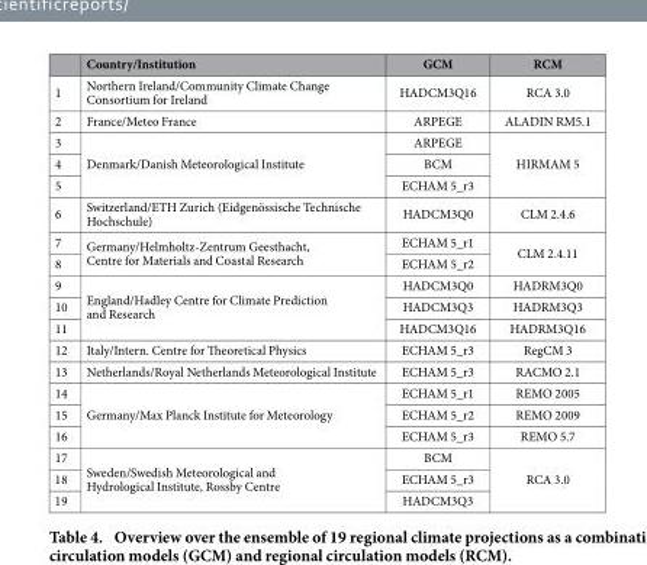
<table><thead><tr><td></td><td>Country/Institution</td><td>GCM</td><td>RCM</td></tr></thead><tbody><tr><td>1</td><td>Northern Ireland/Community Climate Change Consortium for Ireland</td><td>HADCM3Q16</td><td>RCA 3.0</td></tr><tr><td>2</td><td>France/Meteo France</td><td>ARPEGE</td><td>ALADIN RM5.1</td></tr><tr><td>3</td><td rowspan="3">Denmark/Danish Meteorological Institute</td><td>ARPEGE</td><td rowspan="3">HIRMAM 5</td></tr><tr><td>4</td><td>BCM</td></tr><tr><td>5</td><td>ECHAM 5_r3</td></tr><tr><td>6</td><td>Switzerland/ETH Zurich (Eidgenössische Technische Hochschule)</td><td>HADCM3Q0</td><td>CLM 2.4.6</td></tr><tr><td>7</td><td rowspan="2">Germany/Helmholtz-Zentrum Geesthacht, Centre for Materials and Coastal Research</td><td>ECHAM 5_r1</td><td rowspan="2">CLM 2.4.11</td></tr><tr><td>8</td><td>ECHAM 5_r2</td></tr><tr><td>9</td><td rowspan="3">England/Hadley Centre for Climate Prediction and Research</td><td>HADCM3Q0</td><td>HADRM3Q0</td></tr><tr><td>10</td><td>HADCM3Q3</td><td>HADRM3Q3</td></tr><tr><td>11</td><td>HADCM3Q16</td><td>HADRM3Q16</td></tr><tr><td>12</td><td>Italy/Intern. Centre for Theoretical Physics</td><td>ECHAM 5_r3</td><td>RegCM 3</td></tr><tr><td>13</td><td>Netherlands/Royal Netherlands Meteorological Institute</td><td>ECHAM 5_r3</td><td>RACMO 2.1</td></tr><tr><td>14</td><td rowspan="3">Germany/Max Planck Institute for Meteorology</td><td>ECHAM 5_r1</td><td>REMO 2005</td></tr><tr><td>15</td><td>ECHAM 5_r2</td><td>REMO 2009</td></tr><tr><td>16</td><td>ECHAM 5_r3</td><td>REMO 5.7</td></tr><tr><td>17</td><td rowspan="3">Sweden/Swedish Meteorological and Hydrological Institute, Rossby Centre</td><td>BCM</td><td rowspan="3">RCA 3.0</td></tr><tr><td>18</td><td>ECHAM 5_r3</td></tr><tr><td>19</td><td>HADCM3Q3</td></tr></tbody></table>